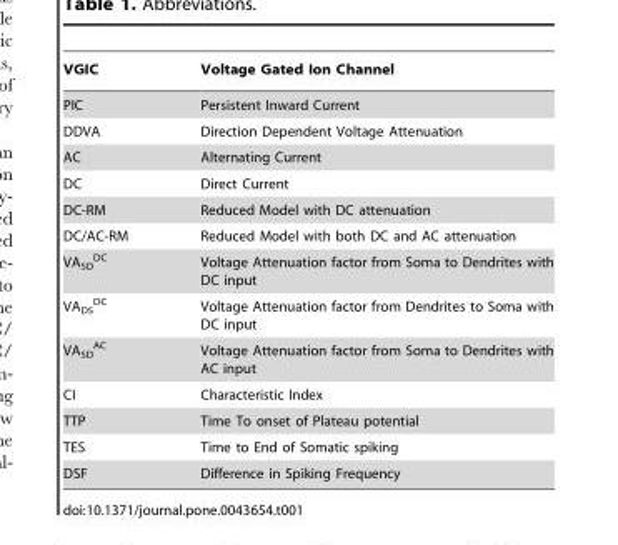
<table><thead><tr><td>VGIC</td><td>Voltage Gated Ion Channel</td></tr></thead><tbody><tr><td>PIC</td><td>Persistent Inward Current</td></tr><tr><td>DDVA</td><td>Direction Dependent Voltage Attenuation</td></tr><tr><td>AC</td><td>Alternating Current</td></tr><tr><td>DC</td><td>Direct Current</td></tr><tr><td>DC-RM</td><td>Reduced Model with DC attenuation</td></tr><tr><td>DC/AC-RM</td><td>Reduced Model with both DC and AC attenuation</td></tr><tr><td>VA<sub>SD</sub> <sup>DC</sup></td><td>Voltage Attenuation factor from Soma to Dendrites with DC input</td></tr><tr><td>VA<sub>DS</sub> <sup>DC</sup></td><td>Voltage Attenuation factor from Dendrites to Soma with DC input</td></tr><tr><td>VA<sub>SD</sub> <sup>AC</sup></td><td>Voltage Attenuation factor from Soma to Dendrites with AC input</td></tr><tr><td>CI</td><td>Characteristic Index</td></tr><tr><td>TTP</td><td>Time To onset of Plateau potential</td></tr><tr><td>TES</td><td>Time to End of Somatic spiking</td></tr><tr><td>DSF</td><td>Difference in Spiking Frequency</td></tr></tbody></table>